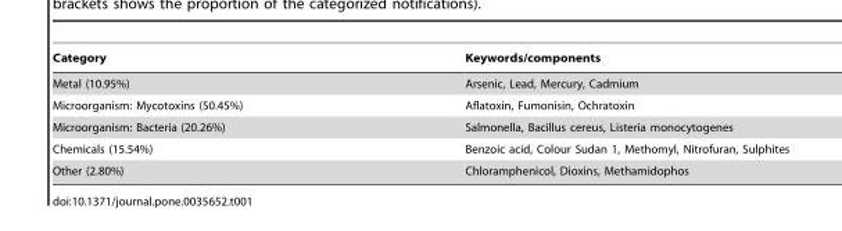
<table><thead><tr><td>Category</td><td>Keywords/components</td></tr></thead><tbody><tr><td>Metal (10.95%)</td><td>Arsenic, Lead, Mercury, Cadmium</td></tr><tr><td>Microorganism: Mycotoxins (50.45%)</td><td>Aflatoxin, Fumonisin, Ochratoxin</td></tr><tr><td>Microorganism: Bacteria (20.26%)</td><td>Salmonella, Bacillus cereus, Listeria monocytogenes</td></tr><tr><td>Chemicals (15.54%)</td><td>Benzoic acid, Colour Sudan 1, Methomyl, Nitrofuran, Sulphites</td></tr><tr><td>Other (2.80%)</td><td>Chloramphenicol, Dioxins, Methamidophos</td></tr></tbody></table>